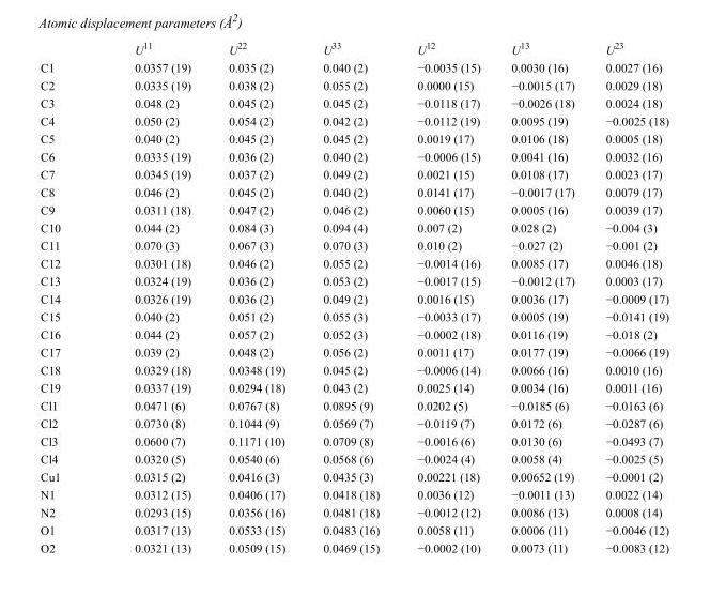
<table><thead><tr><td></td><td>U<sup>11</sup></td><td>U<sup>22</sup></td><td>U<sup>33</sup></td><td>U<sup>12</sup></td><td>U<sup>13</sup></td><td>U<sup>23</sup></td></tr></thead><tbody><tr><td>C1</td><td>0.0357 (19)</td><td>0.035 (2)</td><td>0.040 (2)</td><td>−0.0035 (15)</td><td>0.0030 (16)</td><td>0.0027 (16)</td></tr><tr><td>C2</td><td>0.0335 (19)</td><td>0.038 (2)</td><td>0.055 (2)</td><td>0.0000 (15)</td><td>−0.0015 (17)</td><td>0.0029 (18)</td></tr><tr><td>C3</td><td>0.048 (2)</td><td>0.045 (2)</td><td>0.045 (2)</td><td>−0.0118 (17)</td><td>−0.0026 (18)</td><td>0.0024 (18)</td></tr><tr><td>C4</td><td>0.050 (2)</td><td>0.054 (2)</td><td>0.042 (2)</td><td>−0.0112 (19)</td><td>0.0095 (19)</td><td>−0.0025 (18)</td></tr><tr><td>C5</td><td>0.040 (2)</td><td>0.045 (2)</td><td>0.045 (2)</td><td>0.0019 (17)</td><td>0.0106 (18)</td><td>0.0005 (18)</td></tr><tr><td>C6</td><td>0.0335 (19)</td><td>0.036 (2)</td><td>0.040 (2)</td><td>−0.0006 (15)</td><td>0.0041 (16)</td><td>0.0032 (16)</td></tr><tr><td>C7</td><td>0.0345 (19)</td><td>0.037 (2)</td><td>0.049 (2)</td><td>0.0021 (15)</td><td>0.0108 (17)</td><td>0.0023 (17)</td></tr><tr><td>C8</td><td>0.046 (2)</td><td>0.045 (2)</td><td>0.040 (2)</td><td>0.0141 (17)</td><td>−0.0017 (17)</td><td>0.0079 (17)</td></tr><tr><td>C9</td><td>0.0311 (18)</td><td>0.047 (2)</td><td>0.046 (2)</td><td>0.0060 (15)</td><td>0.0005 (16)</td><td>0.0039 (17)</td></tr><tr><td>C10</td><td>0.044 (2)</td><td>0.084 (3)</td><td>0.094 (4)</td><td>0.007 (2)</td><td>0.028 (2)</td><td>−0.004 (3)</td></tr><tr><td>C11</td><td>0.070 (3)</td><td>0.067 (3)</td><td>0.070 (3)</td><td>0.010 (2)</td><td>−0.027 (2)</td><td>−0.001 (2)</td></tr><tr><td>C12</td><td>0.0301 (18)</td><td>0.046 (2)</td><td>0.055 (2)</td><td>−0.0014 (16)</td><td>0.0085 (17)</td><td>0.0046 (18)</td></tr><tr><td>C13</td><td>0.0324 (19)</td><td>0.036 (2)</td><td>0.053 (2)</td><td>−0.0017 (15)</td><td>−0.0012 (17)</td><td>0.0003 (17)</td></tr><tr><td>C14</td><td>0.0326 (19)</td><td>0.036 (2)</td><td>0.049 (2)</td><td>0.0016 (15)</td><td>0.0036 (17)</td><td>−0.0009 (17)</td></tr><tr><td>C15</td><td>0.040 (2)</td><td>0.051 (2)</td><td>0.055 (3)</td><td>−0.0033 (17)</td><td>0.0005 (19)</td><td>−0.0141 (19)</td></tr><tr><td>C16</td><td>0.044 (2)</td><td>0.057 (2)</td><td>0.052 (3)</td><td>−0.0002 (18)</td><td>0.0116 (19)</td><td>−0.018 (2)</td></tr><tr><td>C17</td><td>0.039 (2)</td><td>0.048 (2)</td><td>0.056 (2)</td><td>0.0011 (17)</td><td>0.0177 (19)</td><td>−0.0066 (19)</td></tr><tr><td>C18</td><td>0.0329 (18)</td><td>0.0348 (19)</td><td>0.045 (2)</td><td>−0.0006 (14)</td><td>0.0066 (16)</td><td>0.0010 (16)</td></tr><tr><td>C19</td><td>0.0337 (19)</td><td>0.0294 (18)</td><td>0.043 (2)</td><td>0.0025 (14)</td><td>0.0034 (16)</td><td>0.0011 (16)</td></tr><tr><td>Cl1</td><td>0.0471 (6)</td><td>0.0767 (8)</td><td>0.0895 (9)</td><td>0.0202 (5)</td><td>−0.0185 (6)</td><td>−0.0163 (6)</td></tr><tr><td>Cl2</td><td>0.0730 (8)</td><td>0.1044 (9)</td><td>0.0569 (7)</td><td>−0.0119 (7)</td><td>0.0172 (6)</td><td>−0.0287 (6)</td></tr><tr><td>Cl3</td><td>0.0600 (7)</td><td>0.1171 (10)</td><td>0.0709 (8)</td><td>−0.0016 (6)</td><td>0.0130 (6)</td><td>−0.0493 (7)</td></tr><tr><td>Cl4</td><td>0.0320 (5)</td><td>0.0540 (6)</td><td>0.0568 (6)</td><td>−0.0024 (4)</td><td>0.0058 (4)</td><td>−0.0025 (5)</td></tr><tr><td>Cu1</td><td>0.0315 (2)</td><td>0.0416 (3)</td><td>0.0435 (3)</td><td>0.00221 (18)</td><td>0.00652 (19)</td><td>−0.0001 (2)</td></tr><tr><td>N1</td><td>0.0312 (15)</td><td>0.0406 (17)</td><td>0.0418 (18)</td><td>0.0036 (12)</td><td>−0.0011 (13)</td><td>0.0022 (14)</td></tr><tr><td>N2</td><td>0.0293 (15)</td><td>0.0356 (16)</td><td>0.0481 (18)</td><td>−0.0012 (12)</td><td>0.0086 (13)</td><td>0.0008 (14)</td></tr><tr><td>O1</td><td>0.0317 (13)</td><td>0.0533 (15)</td><td>0.0483 (16)</td><td>0.0058 (11)</td><td>0.0006 (11)</td><td>−0.0046 (12)</td></tr><tr><td>O2</td><td>0.0321 (13)</td><td>0.0509 (15)</td><td>0.0469 (15)</td><td>−0.0002 (10)</td><td>0.0073 (11)</td><td>−0.0083 (12)</td></tr></tbody></table>